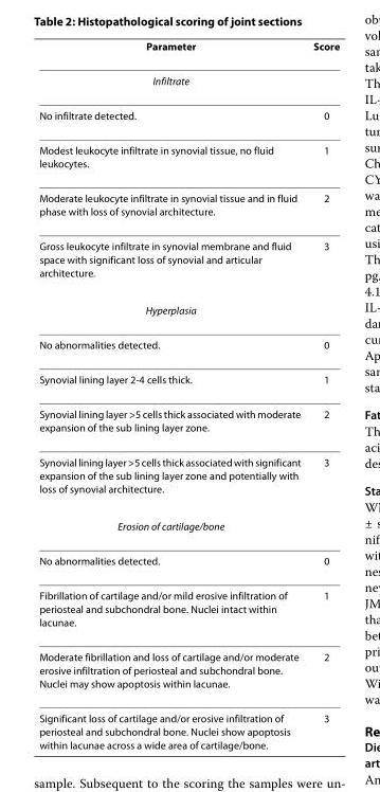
<table><thead><tr><td>Parameter</td><td>Score</td></tr></thead><tbody><tr><td colspan="2">Infiltrate</td></tr><tr><td>No infiltrate detected.</td><td>0</td></tr><tr><td>Modest leukocyte infiltrate in synovial tissue, no fluid leukocytes.</td><td>1</td></tr><tr><td>Moderate leukocyte infiltrate in synovial tissue and in fluid phase with loss of synovial architecture.</td><td>2</td></tr><tr><td>Gross leukocyte infiltrate in synovial membrane and fluid space with significant loss of synovial and articular architecture.</td><td>3</td></tr><tr><td colspan="2">Hyperplasia</td></tr><tr><td>No abnormalities detected.</td><td>0</td></tr><tr><td>Synovial lining layer 2-4 cells thick.</td><td>1</td></tr><tr><td>Synovial lining layer &gt;5 cells thick associated with moderate expansion of the sub lining layer zone.</td><td>2</td></tr><tr><td>Synovial lining layer &gt;5 cells thick associated with significant expansion of the sub lining layer zone and potentially with loss of synovial architecture.</td><td>3</td></tr><tr><td colspan="2">Erosion of cartilage/bone</td></tr><tr><td>No abnormalities detected.</td><td>0</td></tr><tr><td>Fibrillation of cartilage and/or mild erosive infiltration of periosteal and subchondral bone. Nuclei intact within lacunae.</td><td>1</td></tr><tr><td>Moderate fibrillation and loss of cartilage and/or moderate erosive infiltration of periosteal and subchondral bone. Nuclei may show apoptosis within lacunae.</td><td>2</td></tr><tr><td>Significant loss of cartilage and/or erosive infiltration of periosteal and subchondral bone. Nuclei show apoptosis within lacunae across a wide area of cartilage/bone.</td><td>3</td></tr></tbody></table>